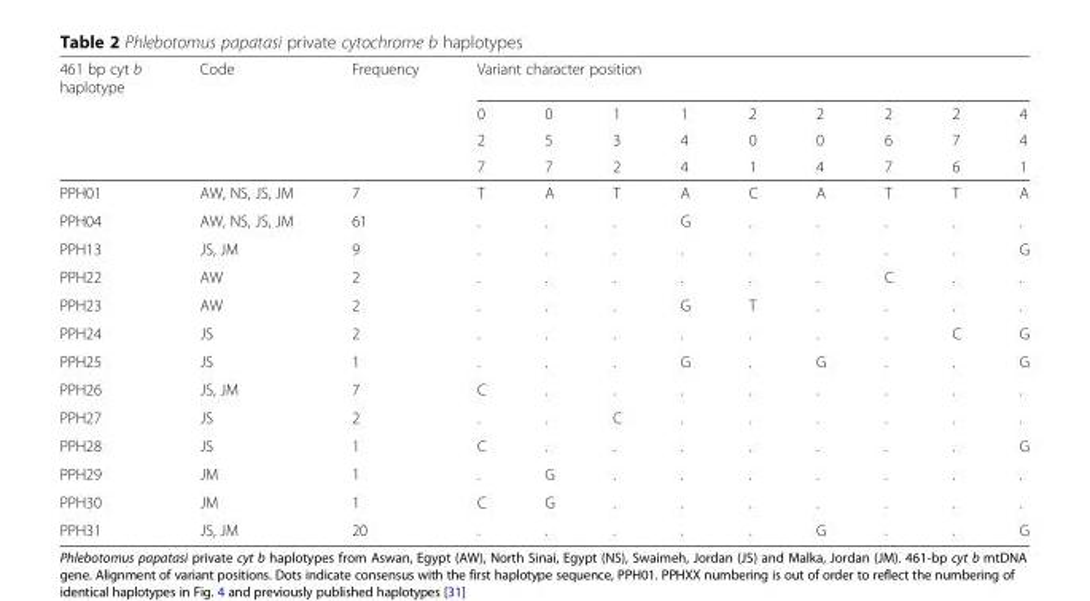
<table><thead><tr><td rowspan="4">461 bp cyt b haplotype</td><td rowspan="4">Code</td><td rowspan="4">Frequency</td><td colspan="9">Variant character position</td></tr><tr><td rowspan="3">0 2 7</td><td rowspan="3">0 5 7</td><td rowspan="3">1 3 2</td><td rowspan="3">1 4 4</td><td rowspan="3">2 0 1</td><td rowspan="3">2 0 4</td><td rowspan="3">2 6 7</td><td rowspan="3">2 7 6</td><td rowspan="3">4 4 1</td></tr><tr></tr><tr></tr></thead><tbody><tr><td>PPH01</td><td>AW, NS, JS, JM</td><td>7</td><td>T</td><td>A</td><td>T</td><td>A</td><td>C</td><td>A</td><td>T</td><td>T</td><td>A</td></tr><tr><td>PPH04</td><td>AW, NS, JS, JM</td><td>61</td><td>.</td><td>.</td><td>.</td><td>G</td><td>.</td><td>.</td><td>.</td><td>.</td><td>.</td></tr><tr><td>PPH13</td><td>JS, JM</td><td>9</td><td>.</td><td>.</td><td>.</td><td>.</td><td>.</td><td>.</td><td>.</td><td>.</td><td>G</td></tr><tr><td>PPH22</td><td>AW</td><td>2</td><td>.</td><td>.</td><td>.</td><td>.</td><td>.</td><td>.</td><td>C</td><td>.</td><td>.</td></tr><tr><td>PPH23</td><td>AW</td><td>2</td><td>.</td><td>.</td><td>.</td><td>G</td><td>T</td><td>.</td><td>.</td><td>.</td><td>.</td></tr><tr><td>PPH24</td><td>JS</td><td>2</td><td>.</td><td>.</td><td>.</td><td>.</td><td>.</td><td>.</td><td>.</td><td>C</td><td>G</td></tr><tr><td>PPH25</td><td>JS</td><td>1</td><td>.</td><td>.</td><td>.</td><td>G</td><td>.</td><td>G</td><td>.</td><td>.</td><td>G</td></tr><tr><td>PPH26</td><td>JS, JM</td><td>7</td><td>C</td><td>.</td><td>.</td><td>.</td><td>.</td><td>.</td><td>.</td><td>.</td><td>.</td></tr><tr><td>PPH27</td><td>JS</td><td>2</td><td>.</td><td>.</td><td>C</td><td>.</td><td>.</td><td>.</td><td>.</td><td>.</td><td>.</td></tr><tr><td>PPH28</td><td>JS</td><td>1</td><td>C</td><td>.</td><td>.</td><td>.</td><td>.</td><td>.</td><td>.</td><td>.</td><td>G</td></tr><tr><td>PPH29</td><td>JM</td><td>1</td><td>.</td><td>G</td><td>.</td><td>.</td><td>.</td><td>.</td><td>.</td><td>.</td><td>.</td></tr><tr><td>PPH30</td><td>JM</td><td>1</td><td>C</td><td>G</td><td>.</td><td>.</td><td>.</td><td>.</td><td>.</td><td>.</td><td>.</td></tr><tr><td>PPH31</td><td>JS, JM</td><td>20</td><td>.</td><td>.</td><td>.</td><td>.</td><td>.</td><td>G</td><td>.</td><td>.</td><td>G</td></tr></tbody></table>